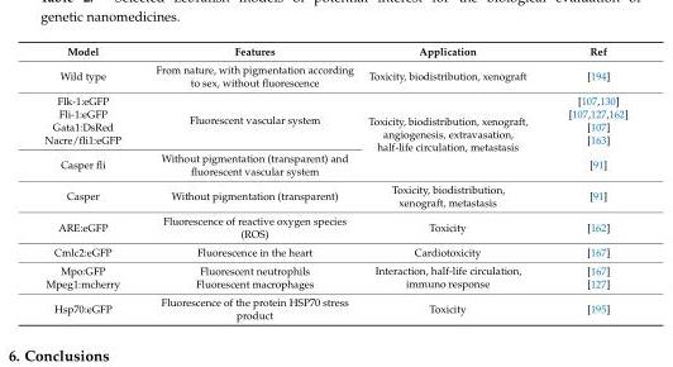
<table><thead><tr><td>Model</td><td>Features</td><td>Application</td><td>Ref</td></tr></thead><tbody><tr><td>Wild type</td><td>From nature, with pigmentation according to sex, without fluorescence</td><td>Toxicity, biodistribution, xenograft</td><td>[194]</td></tr><tr><td>Flk-1:eGFP</td><td rowspan="4">Fluorescent vascular system</td><td rowspan="5">Toxicity, biodistribution, xenograft, angiogenesis, extravasation, half-life circulation, metastasis</td><td>[107,130]</td></tr><tr><td>Fli-1:eGFP</td><td>[107,127,162]</td></tr><tr><td>Gata1:DsRed</td><td>[107]</td></tr><tr><td>Nacre/fli1:eGFP</td><td>[163]</td></tr><tr><td>Casper fli</td><td>Without pigmentation (transparent) and fluorescent vascular system</td><td>[91]</td></tr><tr><td>Casper</td><td>Without pigmentation (transparent)</td><td>Toxicity, biodistribution, xenograft, metastasis</td><td>[91]</td></tr><tr><td>ARE:eGFP</td><td>Fluorescence of reactive oxygen species (ROS)</td><td>Toxicity</td><td>[162]</td></tr><tr><td>Cmlc2:eGFP</td><td>Fluorescence in the heart</td><td>Cardiotoxicity</td><td>[167]</td></tr><tr><td>Mpo:GFP</td><td>Fluorescent neutrophils</td><td rowspan="2">Interaction, half-life circulation, immuno response</td><td>[167]</td></tr><tr><td>Mpeg1:mcherry</td><td>Fluorescent macrophages</td><td>[127]</td></tr><tr><td>Hsp70:eGFP</td><td>Fluorescence of the protein HSP70 stress product</td><td>Toxicity</td><td>[195]</td></tr></tbody></table>